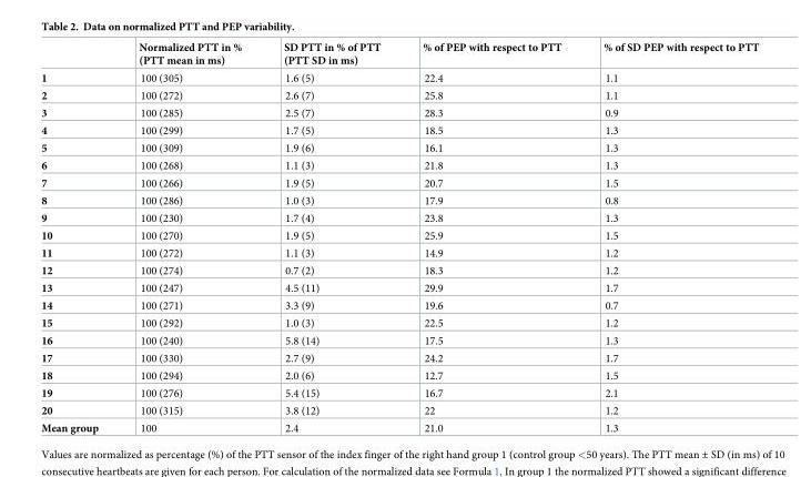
<table><thead><tr><td></td><td>Normalized PTT in % (PTT mean in ms)</td><td>SD PTT in % of PTT (PTT SD in ms)</td><td>% of PEP with respect to PTT</td><td>% of SD PEP with respect to PTT</td></tr></thead><tbody><tr><td>1</td><td>100 (305)</td><td>1.6 (5)</td><td>22.4</td><td>1.1</td></tr><tr><td>2</td><td>100 (272)</td><td>2.6 (7)</td><td>25.8</td><td>1.1</td></tr><tr><td>3</td><td>100 (285)</td><td>2.5 (7)</td><td>28.3</td><td>0.9</td></tr><tr><td>4</td><td>100 (299)</td><td>1.7 (5)</td><td>18.5</td><td>1.3</td></tr><tr><td>5</td><td>100 (309)</td><td>1.9 (6)</td><td>16.1</td><td>1.3</td></tr><tr><td>6</td><td>100 (268)</td><td>1.1 (3)</td><td>21.8</td><td>1.3</td></tr><tr><td>7</td><td>100 (266)</td><td>1.9 (5)</td><td>20.7</td><td>1.5</td></tr><tr><td>8</td><td>100 (286)</td><td>1.0 (3)</td><td>17.9</td><td>0.8</td></tr><tr><td>9</td><td>100 (230)</td><td>1.7 (4)</td><td>23.8</td><td>1.3</td></tr><tr><td>10</td><td>100 (270)</td><td>1.9 (5)</td><td>25.9</td><td>1.5</td></tr><tr><td>11</td><td>100 (272)</td><td>1.1 (3)</td><td>14.9</td><td>1.2</td></tr><tr><td>12</td><td>100 (274)</td><td>0.7 (2)</td><td>18.3</td><td>1.2</td></tr><tr><td>13</td><td>100 (247)</td><td>4.5 (11)</td><td>29.9</td><td>1.7</td></tr><tr><td>14</td><td>100 (271)</td><td>3.3 (9)</td><td>19.6</td><td>0.7</td></tr><tr><td>15</td><td>100 (292)</td><td>1.0 (3)</td><td>22.5</td><td>1.2</td></tr><tr><td>16</td><td>100 (240)</td><td>5.8 (14)</td><td>17.5</td><td>1.3</td></tr><tr><td>17</td><td>100 (330)</td><td>2.7 (9)</td><td>24.2</td><td>1.7</td></tr><tr><td>18</td><td>100 (294)</td><td>2.0 (6)</td><td>12.7</td><td>1.5</td></tr><tr><td>19</td><td>100 (276)</td><td>5.4 (15)</td><td>16.7</td><td>2.1</td></tr><tr><td>20</td><td>100 (315)</td><td>3.8 (12)</td><td>22</td><td>1.2</td></tr><tr><td>Mean group</td><td>100</td><td>2.4</td><td>21.0</td><td>1.3</td></tr></tbody></table>